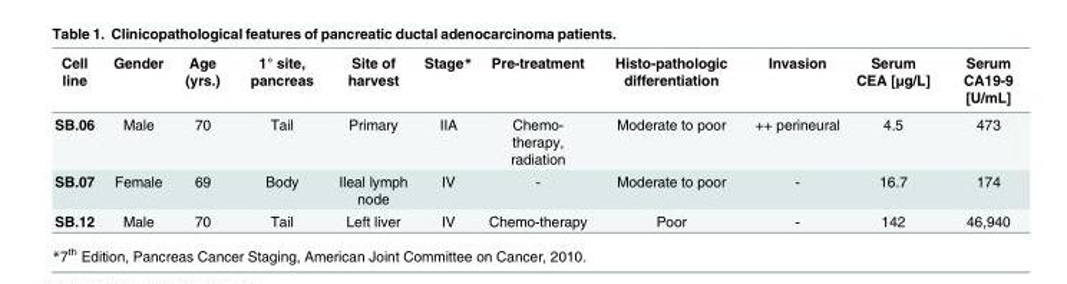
<table><thead><tr><td>Cell line</td><td>Gender</td><td>Age (yrs.)</td><td>1° site, pancreas</td><td>Site of harvest</td><td>Stage*</td><td>Pre-treatment</td><td>Histo-pathologic differentiation</td><td>Invasion</td><td>Serum CEA [μg/L]</td><td>Serum CA19-9 [U/mL]</td></tr></thead><tbody><tr><td>SB.06</td><td>Male</td><td>70</td><td>Tail</td><td>Primary</td><td>IIA</td><td>Chemo- therapy, radiation</td><td>Moderate to poor</td><td>++ perineural</td><td>4.5</td><td>473</td></tr><tr><td>SB.07</td><td>Female</td><td>69</td><td>Body</td><td>Ileal lymph node</td><td>IV</td><td>-</td><td>Moderate to poor</td><td>-</td><td>16.7</td><td>174</td></tr><tr><td>SB.12</td><td>Male</td><td>70</td><td>Tail</td><td>Left liver</td><td>IV</td><td>Chemo-therapy</td><td>Poor</td><td>-</td><td>142</td><td>46,940</td></tr></tbody></table>